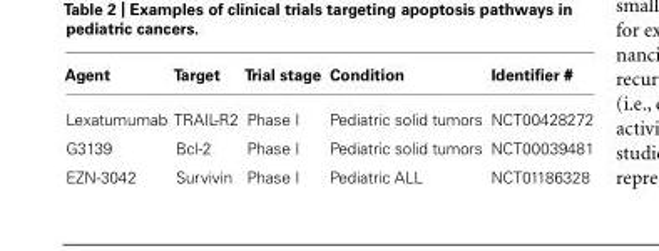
<table><thead><tr><td>Agent</td><td>Target</td><td>Trial stage</td><td>Condition</td><td>Identifier ###</td></tr></thead><tbody><tr><td>Lexatumumab</td><td>TRAIL-R2</td><td>Phase I</td><td>Pediatric solid tumors</td><td>NCT00428272</td></tr><tr><td>G3139</td><td>Bcl-2</td><td>Phase I</td><td>Pediatric solid tumors</td><td>NCT00039481</td></tr><tr><td>EZN-3042</td><td>Survivin</td><td>Phase I</td><td>Pediatric ALL</td><td>NCT01186328</td></tr></tbody></table>